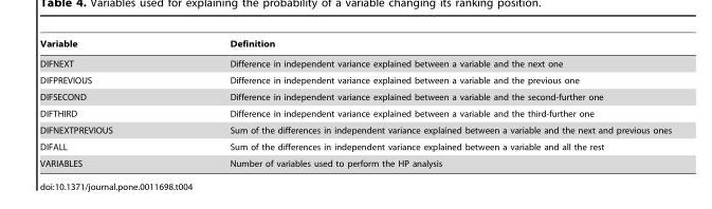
<table><thead><tr><td>Variable</td><td>Definition</td></tr></thead><tbody><tr><td>DIFNEXT</td><td>Difference in independent variance explained between a variable and the next one</td></tr><tr><td>DIFPREVIOUS</td><td>Difference in independent variance explained between a variable and the previous one</td></tr><tr><td>DIFSECOND</td><td>Difference in independent variance explained between a variable and the second-further one</td></tr><tr><td>DIFTHIRD</td><td>Difference in independent variance explained between a variable and the third-further one</td></tr><tr><td>DIFNEXTPREVIOUS</td><td>Sum of the differences in independent variance explained between a variable and the next and previous ones</td></tr><tr><td>DIFALL</td><td>Sum of the differences in independent variance explained between a variable and all the rest</td></tr><tr><td>VARIABLES</td><td>Number of variables used to perform the HP analysis</td></tr></tbody></table>